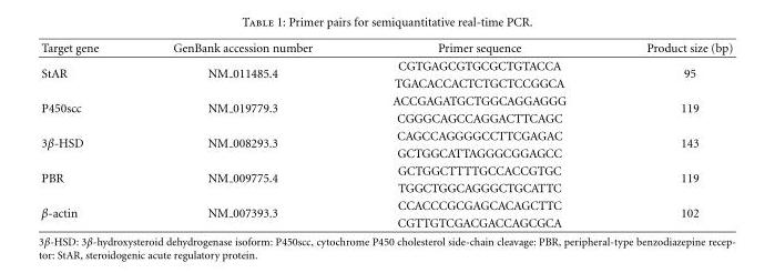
<table><thead><tr><td>Target gene</td><td>GenBank accession number</td><td>Primer sequence</td><td>Product size (bp)</td></tr></thead><tbody><tr><td rowspan="2">StAR</td><td rowspan="2">NM 011485.4</td><td>CGTGAGCGTGCGCTGTACCA</td><td rowspan="2">95</td></tr><tr><td>TGACACCACTCTGCTCCGGCA</td></tr><tr><td rowspan="2">P450scc</td><td rowspan="2">NM 019779.3</td><td>ACCGAGATGCTGGCAGGAGGG</td><td rowspan="2">119</td></tr><tr><td>CGGGCAGCCAGGACTTCAGC</td></tr><tr><td rowspan="2">3β-HSD</td><td rowspan="2">NM 008293.3</td><td>CAGCCAGGGGCCTTCGAGAC</td><td rowspan="2">143</td></tr><tr><td>GCTGGCATTAGGGCGGAGCC</td></tr><tr><td rowspan="2">PBR</td><td rowspan="2">NM 009775.4</td><td>GCTGGCTTTTGCCACCGTGC</td><td rowspan="2">119</td></tr><tr><td>TGGCTGGCAGGGCTGCATTC</td></tr><tr><td rowspan="2">β-actin</td><td rowspan="2">NM 007393.3</td><td>CCACCCGCGAGCACAGCTTC</td><td rowspan="2">102</td></tr><tr><td>CGTTGTCGACGACCAGCGCA</td></tr></tbody></table>